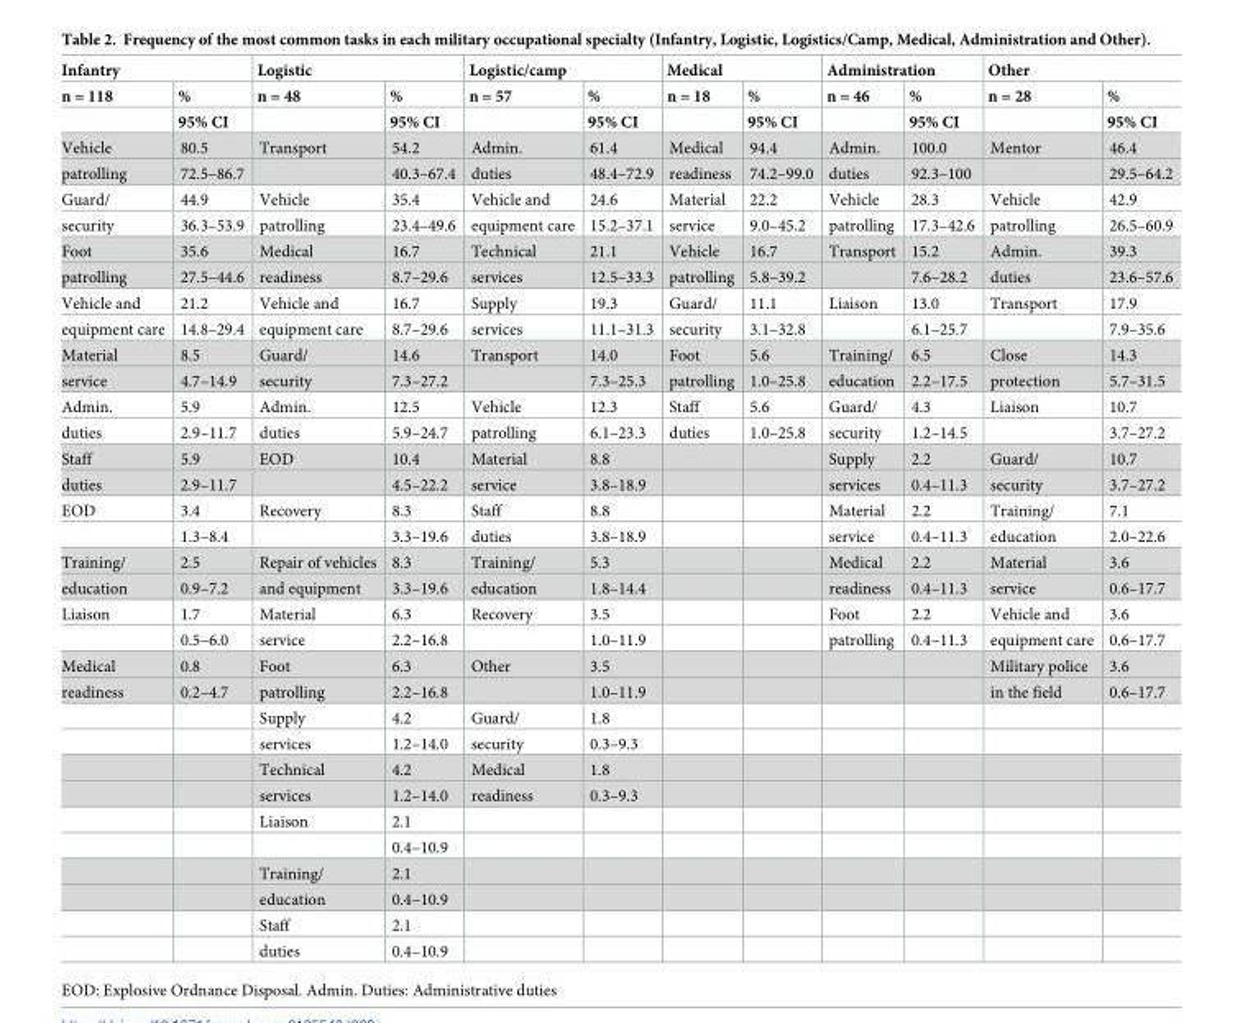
<table><thead><tr><td colspan="2">Infantry</td><td colspan="2">Logistic</td><td colspan="2">Logistic/camp</td><td colspan="2">Medical</td><td colspan="2">Administration</td><td colspan="2">Other</td></tr><tr><td rowspan="2">n = 118</td><td rowspan="2">% 95% CI</td><td rowspan="2">n = 48</td><td rowspan="2">% 95% CI</td><td rowspan="2">n = 57</td><td rowspan="2">% 95% CI</td><td rowspan="2">n = 18</td><td rowspan="2">% 95% CI</td><td rowspan="2">n = 46</td><td rowspan="2">% 95% CI</td><td rowspan="2">n = 28</td><td rowspan="2">% 95% CI</td></tr><tr></tr></thead><tbody><tr><td>Vehicle</td><td>80.5</td><td>Transport</td><td>54.2</td><td>Admin.</td><td>61.4</td><td>Medical</td><td>94.4</td><td>Admin.</td><td>100.0</td><td>Mentor</td><td>46.4</td></tr><tr><td>patrolling</td><td>72.5–86.7</td><td></td><td>40.3–67.4</td><td>duties</td><td>48.4–72.9</td><td>readiness</td><td>74.2–99.0</td><td>duties</td><td>92.3–100</td><td></td><td>29.5–64.2</td></tr><tr><td>Guard/</td><td>44.9</td><td>Vehicle</td><td>35.4</td><td>Vehicle and</td><td>24.6</td><td>Material</td><td>22.2</td><td>Vehicle</td><td>28.3</td><td>Vehicle</td><td>42.9</td></tr><tr><td>security</td><td>36.3–53.9</td><td>patrolling</td><td>23.4–49.6</td><td>equipment care</td><td>15.2–37.1</td><td>service</td><td>9.0–45.2</td><td>patrolling</td><td>17.3–42.6</td><td>patrolling</td><td>26.5–60.9</td></tr><tr><td>Foot</td><td>35.6</td><td>Medical</td><td>16.7</td><td>Technical</td><td>21.1</td><td>Vehicle</td><td>16.7</td><td>Transport</td><td>15.2</td><td>Admin.</td><td>39.3</td></tr><tr><td>patrolling</td><td>27.5–44.6</td><td>readiness</td><td>8.7–29.6</td><td>services</td><td>12.5–33.3</td><td>patrolling</td><td>5.8–39.2</td><td></td><td>7.6–28.2</td><td>duties</td><td>23.6–57.6</td></tr><tr><td>Vehicle and</td><td>21.2</td><td>Vehicle and</td><td>16.7</td><td>Supply</td><td>19.3</td><td>Guard/</td><td>11.1</td><td>Liaison</td><td>13.0</td><td>Transport</td><td>17.9</td></tr><tr><td>equipment care</td><td>14.8–29.4</td><td>equipment care</td><td>8.7–29.6</td><td>services</td><td>11.1–31.3</td><td>security</td><td>3.1–32.8</td><td></td><td>6.1–25.7</td><td></td><td>7.9–35.6</td></tr><tr><td>Material</td><td>8.5</td><td>Guard/</td><td>14.6</td><td>Transport</td><td>14.0</td><td>Foot</td><td>5.6</td><td>Training/</td><td>6.5</td><td>Close</td><td>14.3</td></tr><tr><td>service</td><td>4.7–14.9</td><td>security</td><td>7.3–27.2</td><td></td><td>7.3–25.3</td><td>patrolling</td><td>1.0–25.8</td><td>education</td><td>2.2–17.5</td><td>protection</td><td>5.7–31.5</td></tr><tr><td>Admin.</td><td>5.9</td><td>Admin.</td><td>12.5</td><td>Vehicle</td><td>12.3</td><td>Staff</td><td>5.6</td><td>Guard/</td><td>4.3</td><td>Liaison</td><td>10.7</td></tr><tr><td>duties</td><td>2.9–11.7</td><td>duties</td><td>5.9–24.7</td><td>patrolling</td><td>6.1–23.3</td><td>duties</td><td>1.0–25.8</td><td>security</td><td>1.2–14.5</td><td></td><td>3.7–27.2</td></tr><tr><td>Staff</td><td>5.9</td><td>EOD</td><td>10.4</td><td>Material</td><td>8.8</td><td></td><td></td><td>Supply</td><td>2.2</td><td>Guard/</td><td>10.7</td></tr><tr><td>duties</td><td>2.9–11.7</td><td></td><td>4.5–22.2</td><td>service</td><td>3.8–18.9</td><td></td><td></td><td>services</td><td>0.4–11.3</td><td>security</td><td>3.7–27.2</td></tr><tr><td rowspan="2">EOD</td><td>3.4</td><td>Recovery</td><td>8.3</td><td>Staff</td><td>8.8</td><td></td><td></td><td>Material</td><td>2.2</td><td>Training/</td><td>7.1</td></tr><tr><td>1.3–8.4</td><td></td><td>3.3–19.6</td><td>duties</td><td>3.8–18.9</td><td></td><td></td><td>service</td><td>0.4–11.3</td><td>education</td><td>2.0–22.6</td></tr><tr><td>Training/</td><td>2.5</td><td>Repair of vehicles</td><td>8.3</td><td>Training/</td><td>5.3</td><td></td><td></td><td>Medical</td><td>2.2</td><td>Material</td><td>3.6</td></tr><tr><td>education</td><td>0.9–7.2</td><td>and equipment</td><td>3.3–19.6</td><td>education</td><td>1.8–14.4</td><td></td><td></td><td>readiness</td><td>0.4–11.3</td><td>service</td><td>0.6–17.7</td></tr><tr><td rowspan="2">Liaison</td><td>1.7</td><td>Material</td><td>6.3</td><td>Recovery</td><td>3.5</td><td></td><td></td><td>Foot</td><td>2.2</td><td>Vehicle and</td><td>3.6</td></tr><tr><td>0.5–6.0</td><td>service</td><td>2.2–16.8</td><td></td><td>1.0–11.9</td><td></td><td></td><td>patrolling</td><td>0.4–11.3</td><td>equipment care</td><td>0.6–17.7</td></tr><tr><td>Medical</td><td>0.8</td><td>Foot</td><td>6.3</td><td>Other</td><td>3.5</td><td></td><td></td><td></td><td></td><td>Military police</td><td>3.6</td></tr><tr><td rowspan="11">readiness</td><td>0.2–4.7</td><td>patrolling</td><td>2.2–16.8</td><td></td><td>1.0–11.9</td><td></td><td></td><td></td><td></td><td>in the field</td><td>0.6–17.7</td></tr><tr><td></td><td>Supply</td><td>4.2</td><td>Guard/</td><td>1.8</td><td></td><td></td><td></td><td></td><td></td><td></td></tr><tr><td></td><td>services</td><td>1.2–14.0</td><td>security</td><td>0.3–9.3</td><td></td><td></td><td></td><td></td><td></td><td></td></tr><tr><td></td><td>Technical</td><td>4.2</td><td>Medical</td><td>1.8</td><td></td><td></td><td></td><td></td><td></td><td></td></tr><tr><td></td><td>services</td><td>1.2–14.0</td><td>readiness</td><td>0.3–9.3</td><td></td><td></td><td></td><td></td><td></td><td></td></tr><tr><td></td><td>Liaison</td><td>2.1</td><td></td><td></td><td></td><td></td><td></td><td></td><td></td><td></td></tr><tr><td></td><td></td><td>0.4–10.9</td><td></td><td></td><td></td><td></td><td></td><td></td><td></td><td></td></tr><tr><td></td><td>Training/</td><td>2.1</td><td></td><td></td><td></td><td></td><td></td><td></td><td></td><td></td></tr><tr><td></td><td>education</td><td>0.4–10.9</td><td></td><td></td><td></td><td></td><td></td><td></td><td></td><td></td></tr><tr><td></td><td>Staff</td><td>2.1</td><td></td><td></td><td></td><td></td><td></td><td></td><td></td><td></td></tr><tr><td></td><td>duties</td><td>0.4–10.9</td><td></td><td></td><td></td><td></td><td></td><td></td><td></td><td></td></tr></tbody></table>